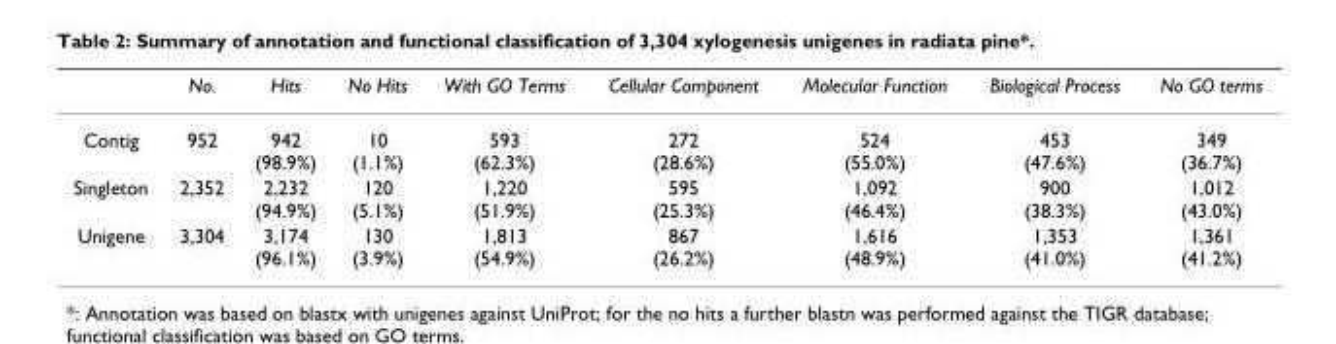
<table><thead><tr><td></td><td>No.</td><td>Hits</td><td>No Hits</td><td>With GO Terms</td><td>Cellular Component</td><td>Molecular Function</td><td>Biological Process</td><td>No GO terms</td></tr></thead><tbody><tr><td>Contig</td><td>952</td><td>942 (98.9%)</td><td>10 (1.1%)</td><td>593 (62.3%)</td><td>272 (28.6%)</td><td>524 (55.0%)</td><td>453 (47.6%)</td><td>349 (36.7%)</td></tr><tr><td>Singleton</td><td>2,352</td><td>2,232 (94.9%)</td><td>120 (5.1%)</td><td>1,220 (51.9%)</td><td>595 (25.3%)</td><td>1,092 (46.4%)</td><td>900 (38.3%)</td><td>1,012 (43.0%)</td></tr><tr><td>Unigene</td><td>3,304</td><td>3,174 (96.1%)</td><td>130 (3.9%)</td><td>1,813 (54.9%)</td><td>867 (26.2%)</td><td>1,616 (48.9%)</td><td>1,353 (41.0%)</td><td>1,361 (41.2%)</td></tr></tbody></table>